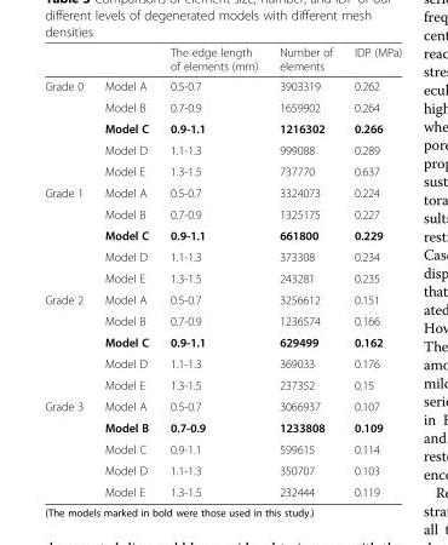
<table><thead><tr><td></td><td></td><td>The edge length of elements (mm)</td><td>Number of elements</td><td>IDP (MPa)</td></tr></thead><tbody><tr><td rowspan="5">Grade 0</td><td>Model A</td><td>0.5-0.7</td><td>3903319</td><td>0.262</td></tr><tr><td>Model B</td><td>0.7-0.9</td><td>1659902</td><td>0.264</td></tr><tr><td>Model C</td><td>0.9-1.1</td><td>1216302</td><td>0.266</td></tr><tr><td>Model D</td><td>1.1-1.3</td><td>999088</td><td>0.289</td></tr><tr><td>Model E</td><td>1.3-1.5</td><td>737770</td><td>0.637</td></tr><tr><td rowspan="5">Grade 1</td><td>Model A</td><td>0.5-0.7</td><td>3324073</td><td>0.224</td></tr><tr><td>Model B</td><td>0.7-0.9</td><td>1325175</td><td>0.227</td></tr><tr><td>Model C</td><td>0.9-1.1</td><td>661800</td><td>0.229</td></tr><tr><td>Model D</td><td>1.1-1.3</td><td>373308</td><td>0.234</td></tr><tr><td>Model E</td><td>1.3-1.5</td><td>243281</td><td>0.235</td></tr><tr><td rowspan="5">Grade 2</td><td>Model A</td><td>0.5-0.7</td><td>3256612</td><td>0.151</td></tr><tr><td>Model B</td><td>0.7-0.9</td><td>1236574</td><td>0.166</td></tr><tr><td>Model C</td><td>0.9-1.1</td><td>629499</td><td>0.162</td></tr><tr><td>Model D</td><td>1.1-1.3</td><td>369033</td><td>0.176</td></tr><tr><td>Model E</td><td>1.3-1.5</td><td>237352</td><td>0.15</td></tr><tr><td rowspan="5">Grade 3</td><td>Model A</td><td>0.5-0.7</td><td>3066937</td><td>0.107</td></tr><tr><td>Model B</td><td>0.7-0.9</td><td>1233808</td><td>0.109</td></tr><tr><td>Model C</td><td>0.9-1.1</td><td>599615</td><td>0.114</td></tr><tr><td>Model D</td><td>1.1-1.3</td><td>350707</td><td>0.103</td></tr><tr><td>Model E</td><td>1.3-1.5</td><td>232444</td><td>0.119</td></tr></tbody></table>